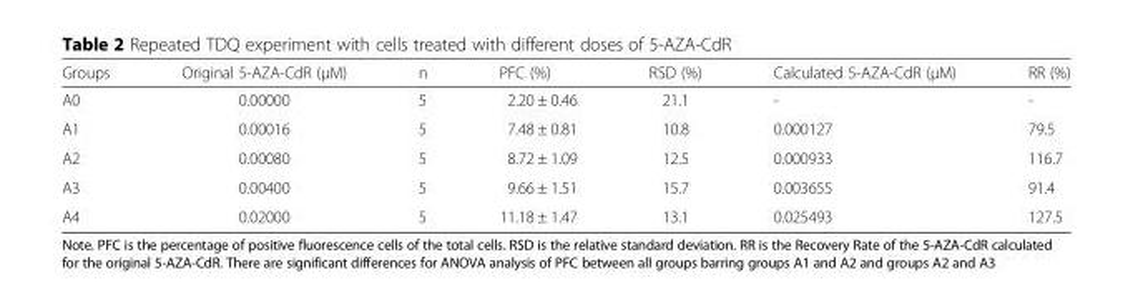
<table><thead><tr><td>Groups</td><td>Original 5-AZA-CdR (μM)</td><td>n</td><td>PFC (%)</td><td>RSD (%)</td><td>Calculated 5-AZA-CdR (μM)</td><td>RR (%)</td></tr></thead><tbody><tr><td>A0</td><td>0.00000</td><td>5</td><td>2.20 ± 0.46</td><td>21.1</td><td>-</td><td>-</td></tr><tr><td>A1</td><td>0.00016</td><td>5</td><td>7.48 ± 0.81</td><td>10.8</td><td>0.000127</td><td>79.5</td></tr><tr><td>A2</td><td>0.00080</td><td>5</td><td>8.72 ± 1.09</td><td>12.5</td><td>0.000933</td><td>116.7</td></tr><tr><td>A3</td><td>0.00400</td><td>5</td><td>9.66 ± 1.51</td><td>15.7</td><td>0.003655</td><td>91.4</td></tr><tr><td>A4</td><td>0.02000</td><td>5</td><td>11.18 ± 1.47</td><td>13.1</td><td>0.025493</td><td>127.5</td></tr></tbody></table>